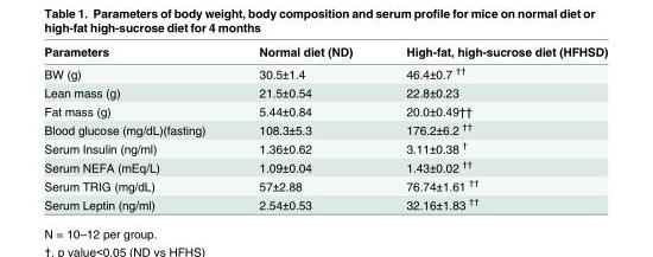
<table><thead><tr><td>Parameters</td><td>Normal diet (ND)</td><td>High-fat, high-sucrose diet (HFHSD)</td></tr></thead><tbody><tr><td>BW (g)</td><td>30.5±1.4</td><td>46.4±0.7 <sup>††</sup></td></tr><tr><td>Lean mass (g)</td><td>21.5±0.54</td><td>22.8±0.23</td></tr><tr><td>Fat mass (g)</td><td>5.44±0.84</td><td>20.0±0.49††</td></tr><tr><td>Blood glucose (mg/dL)(fasting)</td><td>108.3±5.3</td><td>176.2±6.2 <sup>††</sup></td></tr><tr><td>Serum Insulin (ng/ml)</td><td>1.36±0.62</td><td>3.11±0.38 <sup>†</sup></td></tr><tr><td>Serum NEFA (mEq/L)</td><td>1.09±0.04</td><td>1.43±0.02 <sup>††</sup></td></tr><tr><td>Serum TRIG (mg/dL)</td><td>57±2.88</td><td>76.74±1.61 <sup>††</sup></td></tr><tr><td>Serum Leptin (ng/ml)</td><td>2.54±0.53</td><td>32.16±1.83 <sup>††</sup></td></tr></tbody></table>